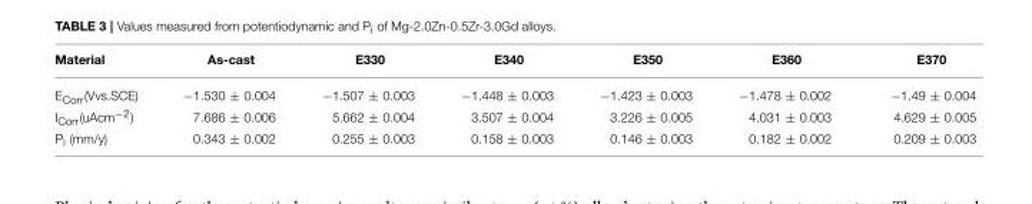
<table><thead><tr><td>Material</td><td>As-cast</td><td>E330</td><td>E340</td><td>E350</td><td>E360</td><td>E370</td></tr></thead><tbody><tr><td>E<sub>Corr</sub>(Vvs.SCE)</td><td>−1.530 ± 0.004</td><td>−1.507 ± 0.003</td><td>−1.448 ± 0.003</td><td>−1.423 ± 0.003</td><td>−1.478 ± 0.002</td><td>−1.49 ± 0.004</td></tr><tr><td>I<sub>Corr</sub>(uAcm<sup>−2</sup>)</td><td>7.686 ± 0.006</td><td>5.662 ± 0.004</td><td>3.507 ± 0.004</td><td>3.226 ± 0.005</td><td>4.031 ± 0.003</td><td>4.629 ± 0.005</td></tr><tr><td>P<sub>i</sub> (mm/y)</td><td>0.343 ± 0.002</td><td>0.255 ± 0.003</td><td>0.158 ± 0.003</td><td>0.146 ± 0.003</td><td>0.182 ± 0.002</td><td>0.209 ± 0.003</td></tr></tbody></table>